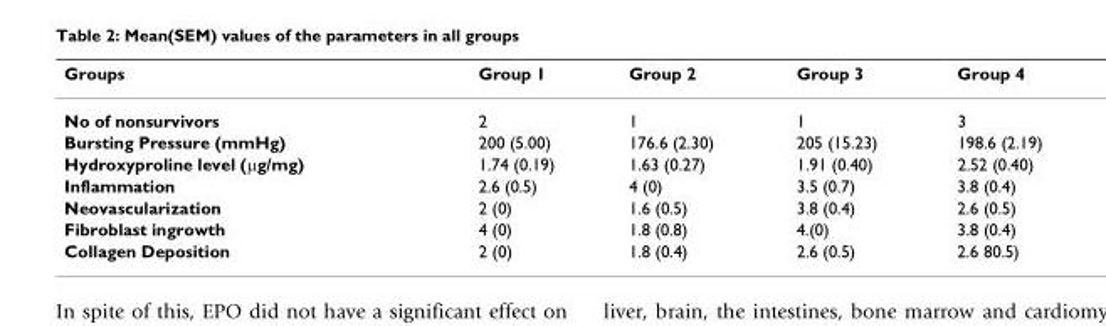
<table><thead><tr><td>Groups</td><td>Group 1</td><td>Group 2</td><td>Group 3</td><td>Group 4</td></tr></thead><tbody><tr><td>No of nonsurvivors</td><td>2</td><td>1</td><td>1</td><td>3</td></tr><tr><td>Bursting Pressure (mmHg)</td><td>200 (5.00)</td><td>176.6 (2.30)</td><td>205 (15.23)</td><td>198.6 (2.19)</td></tr><tr><td>Hydroxyproline level (μg/mg)</td><td>1.74 (0.19)</td><td>1.63 (0.27)</td><td>1.91 (0.40)</td><td>2.52 (0.40)</td></tr><tr><td>Inflammation</td><td>2.6 (0.5)</td><td>4 (0)</td><td>3.5 (0.7)</td><td>3.8 (0.4)</td></tr><tr><td>Neovascularization</td><td>2 (0)</td><td>1.6 (0.5)</td><td>3.8 (0.4)</td><td>2.6 (0.5)</td></tr><tr><td>Fibroblast ingrowth</td><td>4 (0)</td><td>1.8 (0.8)</td><td>4.(0)</td><td>3.8 (0.4)</td></tr><tr><td>Collagen Deposition</td><td>2 (0)</td><td>1.8 (0.4)</td><td>2.6 (0.5)</td><td>2.6 80.5)</td></tr></tbody></table>